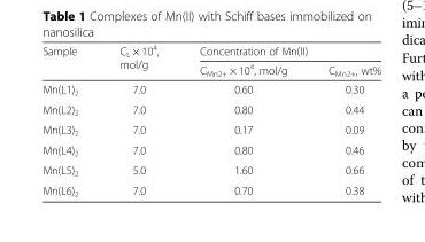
<table><thead><tr><td rowspan="2">Sample</td><td rowspan="2">C<sub>L</sub> × 10<sup>4</sup>, mol/g</td><td colspan="2">Concentration of Mn(II)</td></tr><tr><td>C<sub>Mn2+</sub> × 10<sup>4</sup>, mol/g</td><td>C<sub>Mn2+</sub>, wt%</td></tr></thead><tbody><tr><td>Mn(L1)<sub>2</sub></td><td>7.0</td><td>0.60</td><td>0.30</td></tr><tr><td>Mn(L2)<sub>2</sub></td><td>7.0</td><td>0.80</td><td>0.44</td></tr><tr><td>Mn(L3)<sub>2</sub></td><td>7.0</td><td>0.17</td><td>0.09</td></tr><tr><td>Mn(L4)<sub>2</sub></td><td>7.0</td><td>0.80</td><td>0.46</td></tr><tr><td>Mn(L5)<sub>2</sub></td><td>5.0</td><td>1.60</td><td>0.66</td></tr><tr><td>Mn(L6)<sub>2</sub></td><td>7.0</td><td>0.70</td><td>0.38</td></tr></tbody></table>